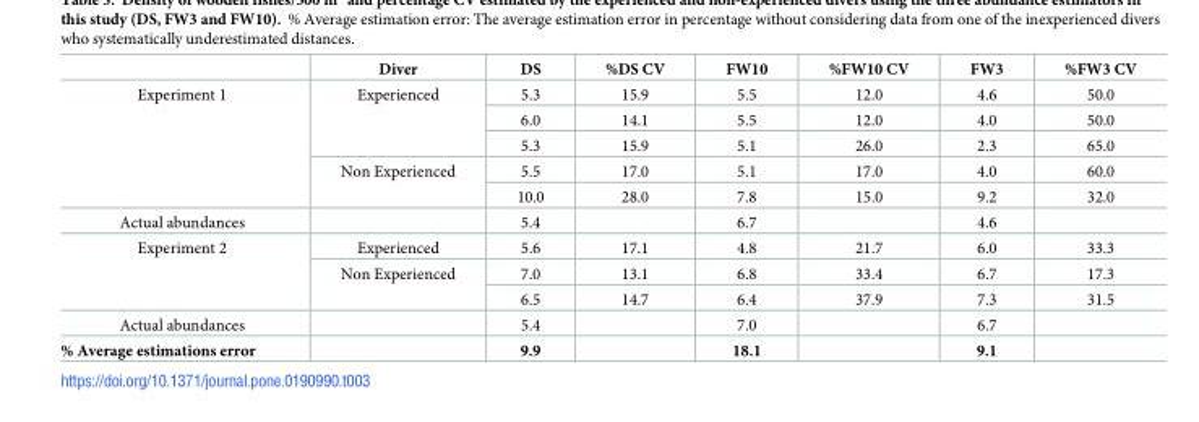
<table><thead><tr><td></td><td>Diver</td><td>DS</td><td>%DS CV</td><td>FW10</td><td>%FW10 CV</td><td>FW3</td><td>%FW3 CV</td></tr></thead><tbody><tr><td rowspan="5">Experiment 1</td><td rowspan="3">Experienced</td><td>5.3</td><td>15.9</td><td>5.5</td><td>12.0</td><td>4.6</td><td>50.0</td></tr><tr><td>6.0</td><td>14.1</td><td>5.5</td><td>12.0</td><td>4.0</td><td>50.0</td></tr><tr><td>5.3</td><td>15.9</td><td>5.1</td><td>26.0</td><td>2.3</td><td>65.0</td></tr><tr><td rowspan="2">Non Experienced</td><td>5.5</td><td>17.0</td><td>5.1</td><td>17.0</td><td>4.0</td><td>60.0</td></tr><tr><td>10.0</td><td>28.0</td><td>7.8</td><td>15.0</td><td>9.2</td><td>32.0</td></tr><tr><td>Actual abundances</td><td></td><td>5.4</td><td></td><td>6.7</td><td></td><td>4.6</td><td></td></tr><tr><td rowspan="3">Experiment 2</td><td>Experienced</td><td>5.6</td><td>17.1</td><td>4.8</td><td>21.7</td><td>6.0</td><td>33.3</td></tr><tr><td rowspan="2">Non Experienced</td><td>7.0</td><td>13.1</td><td>6.8</td><td>33.4</td><td>6.7</td><td>17.3</td></tr><tr><td>6.5</td><td>14.7</td><td>6.4</td><td>37.9</td><td>7.3</td><td>31.5</td></tr><tr><td>Actual abundances</td><td></td><td>5.4</td><td></td><td>7.0</td><td></td><td>6.7</td><td></td></tr><tr><td>% Average estimations error</td><td></td><td>9.9</td><td></td><td>18.1</td><td></td><td>9.1</td><td></td></tr></tbody></table>